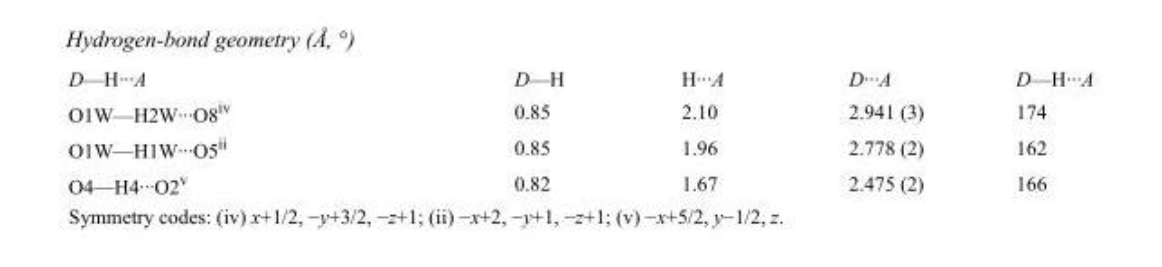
<table><tbody><tr><td>D—H···A</td><td>D—H</td><td>H···A</td><td>D···A</td><td>D—H···A</td></tr><tr><td>O1W—H2W···O8<sup>iv</sup></td><td>0.85</td><td>2.10</td><td>2.941 (3)</td><td>174</td></tr><tr><td>O1W—H1W···O5<sup>ii</sup></td><td>0.85</td><td>1.96</td><td>2.778 (2)</td><td>162</td></tr><tr><td>O4—H4···O2<sup>v</sup></td><td>0.82</td><td>1.67</td><td>2.475 (2)</td><td>166</td></tr></tbody></table>